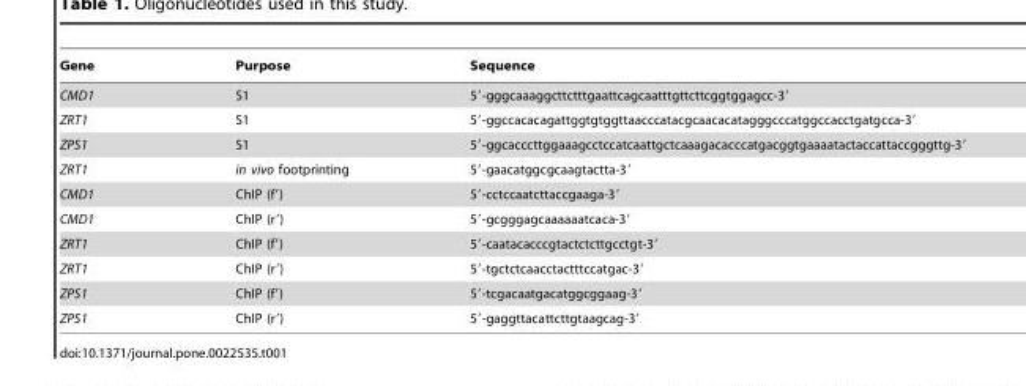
<table><thead><tr><td>Gene</td><td>Purpose</td><td>Sequence</td></tr></thead><tbody><tr><td>CMD1</td><td>S1</td><td>5′-gggcaaaggcttctttgaattcagcaatttgttcttcggtggagcc-3′</td></tr><tr><td>ZRT1</td><td>S1</td><td>5′-ggccacacagattggtgtggttaacccatacgcaacacatagggcccatggccacctgatgcca-3′</td></tr><tr><td>ZPS1</td><td>S1</td><td>5′-ggcacccttggaaagcctccatcaattgctcaaagacacccatgacggtgaaaatactaccattaccgggttg-3′</td></tr><tr><td>ZRT1</td><td>in vivo footprinting</td><td>5′-gaacatggcgcaagtactta-3′</td></tr><tr><td>CMD1</td><td>ChIP (f′)</td><td>5′-cctccaatcttaccgaaga-3′</td></tr><tr><td>CMD1</td><td>ChIP (r′)</td><td>5′-gcgggagcaaaaaatcaca-3′</td></tr><tr><td>ZRT1</td><td>ChIP (f′)</td><td>5′-caatacacccgtactctcttgcctgt-3′</td></tr><tr><td>ZRT1</td><td>ChIP (r′)</td><td>5′-tgctctcaacctactttccatgac-3′</td></tr><tr><td>ZPS1</td><td>ChIP (f′)</td><td>5′-tcgacaatgacatggcggaag-3′</td></tr><tr><td>ZPS1</td><td>ChIP (r′)</td><td>5′-gaggttacattcttgtaagcag-3′</td></tr></tbody></table>